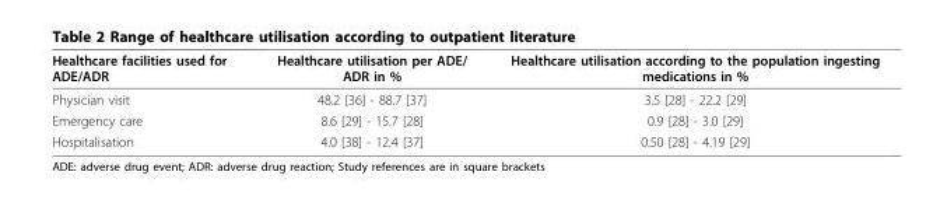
<table><thead><tr><td>Healthcare facilities used for ADE/ADR</td><td>Healthcare utilisation per ADE/ ADR in %</td><td>Healthcare utilisation according to the population ingesting medications in %</td></tr></thead><tbody><tr><td>Physician visit</td><td>48.2 [36] - 88.7 [37]</td><td>3.5 [28] - 22.2 [29]</td></tr><tr><td>Emergency care</td><td>8.6 [29] - 15.7 [28]</td><td>0.9 [28] - 3.0 [29]</td></tr><tr><td>Hospitalisation</td><td>4.0 [38] - 12.4 [37]</td><td>0.50 [28] - 4.19 [29]</td></tr></tbody></table>